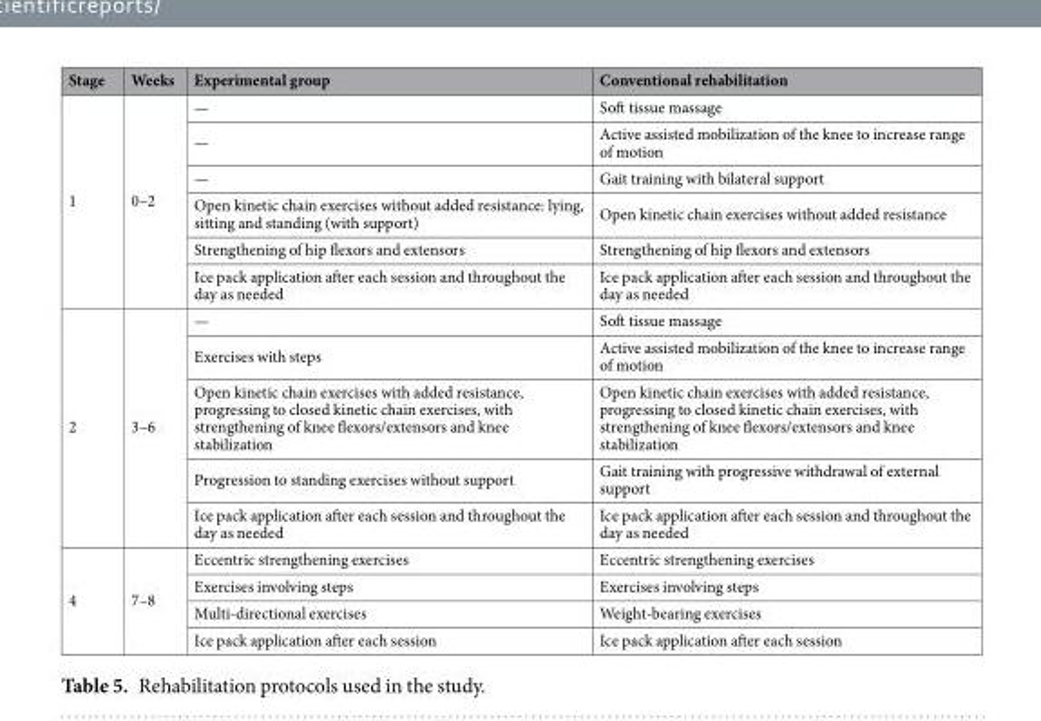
<table><thead><tr><td>Stage</td><td>Weeks</td><td>Experimental group</td><td>Conventional rehabilitation</td></tr></thead><tbody><tr><td rowspan="6">1</td><td rowspan="6">0–2</td><td>—</td><td>Soft tissue massage</td></tr><tr><td>—</td><td>Active assisted mobilization of the knee to increase range of motion</td></tr><tr><td>—</td><td>Gait training with bilateral support</td></tr><tr><td>Open kinetic chain exercises without added resistance: lying, sitting and standing (with support)</td><td>Open kinetic chain exercises without added resistance</td></tr><tr><td>Strengthening of hip flexors and extensors</td><td>Strengthening of hip flexors and extensors</td></tr><tr><td>Ice pack application after each session and throughout the day as needed</td><td>Ice pack application after each session and throughout the day as needed</td></tr><tr><td rowspan="5">2</td><td rowspan="5">3–6</td><td>—</td><td>Soft tissue massage</td></tr><tr><td>Exercises with steps</td><td>Active assisted mobilization of the knee to increase range of motion</td></tr><tr><td>Open kinetic chain exercises with added resistance, progressing to closed kinetic chain exercises, with strengthening of knee flexors/extensors and knee stabilization</td><td>Open kinetic chain exercises with added resistance, progressing to closed kinetic chain exercises, with strengthening of knee flexors/extensors and knee stabilization</td></tr><tr><td>Progression to standing exercises without support</td><td>Gait training with progressive withdrawal of external support</td></tr><tr><td>Ice pack application after each session and throughout the day as needed</td><td>Ice pack application after each session and throughout the day as needed</td></tr><tr><td rowspan="4">4</td><td rowspan="4">7–8</td><td>Eccentric strengthening exercises</td><td>Eccentric strengthening exercises</td></tr><tr><td>Exercises involving steps</td><td>Exercises involving steps</td></tr><tr><td>Multi-directional exercises</td><td>Weight-bearing exercises</td></tr><tr><td>Ice pack application after each session</td><td>Ice pack application after each session</td></tr></tbody></table>